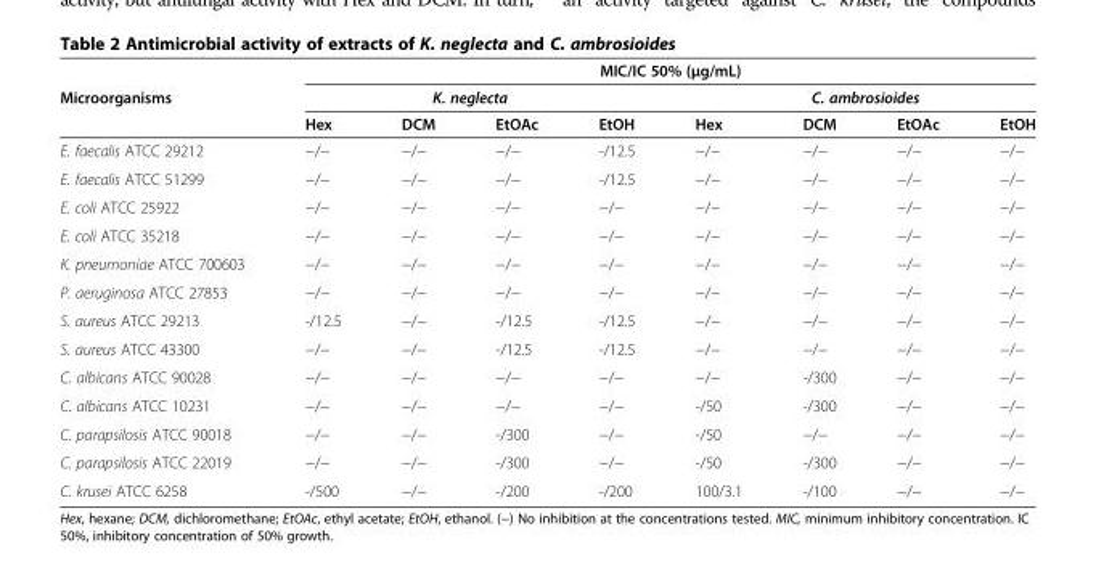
<table><thead><tr><td rowspan="3">Microorganisms</td><td colspan="8">MIC/IC 50% (μg/mL)</td></tr><tr><td colspan="4">K. neglecta</td><td colspan="4">C. ambrosioides</td></tr><tr><td>Hex</td><td>DCM</td><td>EtOAc</td><td>EtOH</td><td>Hex</td><td>DCM</td><td>EtOAc</td><td>EtOH</td></tr></thead><tbody><tr><td>E. faecalis ATCC 29212</td><td>−/−</td><td>−/−</td><td>−/−</td><td>-/12.5</td><td>−/−</td><td>−/−</td><td>−/−</td><td>−/−</td></tr><tr><td>E. faecalis ATCC 51299</td><td>−/−</td><td>−/−</td><td>−/−</td><td>-/12.5</td><td>−/−</td><td>−/−</td><td>−/−</td><td>−/−</td></tr><tr><td>E. coli ATCC 25922</td><td>−/−</td><td>−/−</td><td>−/−</td><td>−/−</td><td>−/−</td><td>−/−</td><td>−/−</td><td>−/−</td></tr><tr><td>E. coli ATCC 35218</td><td>−/−</td><td>−/−</td><td>−/−</td><td>−/−</td><td>−/−</td><td>−/−</td><td>−/−</td><td>−/−</td></tr><tr><td>K. pneumoniae ATCC 700603</td><td>−/−</td><td>−/−</td><td>−/−</td><td>−/−</td><td>−/−</td><td>−/−</td><td>−/−</td><td>−/−</td></tr><tr><td>P. aeruginosa ATCC 27853</td><td>−/−</td><td>−/−</td><td>−/−</td><td>−/−</td><td>−/−</td><td>−/−</td><td>−/−</td><td>−/−</td></tr><tr><td>S. aureus ATCC 29213</td><td>-/12.5</td><td>−/−</td><td>-/12.5</td><td>-/12.5</td><td>−/−</td><td>−/−</td><td>−/−</td><td>−/−</td></tr><tr><td>S. aureus ATCC 43300</td><td>−/−</td><td>−/−</td><td>-/12.5</td><td>-/12.5</td><td>−/−</td><td>−/−</td><td>−/−</td><td>−/−</td></tr><tr><td>C. albicans ATCC 90028</td><td>−/−</td><td>−/−</td><td>−/−</td><td>−/−</td><td>−/−</td><td>-/300</td><td>−/−</td><td>−/−</td></tr><tr><td>C. albicans ATCC 10231</td><td>−/−</td><td>−/−</td><td>−/−</td><td>−/−</td><td>-/50</td><td>-/300</td><td>−/−</td><td>−/−</td></tr><tr><td>C. parapsilosis ATCC 90018</td><td>−/−</td><td>−/−</td><td>-/300</td><td>−/−</td><td>-/50</td><td>−/−</td><td>−/−</td><td>−/−</td></tr><tr><td>C. parapsilosis ATCC 22019</td><td>−/−</td><td>−/−</td><td>-/300</td><td>−/−</td><td>-/50</td><td>-/300</td><td>−/−</td><td>−/−</td></tr><tr><td>C. krusei ATCC 6258</td><td>-/500</td><td>−/−</td><td>-/200</td><td>-/200</td><td>100/3.1</td><td>-/100</td><td>−/−</td><td>−/−</td></tr></tbody></table>